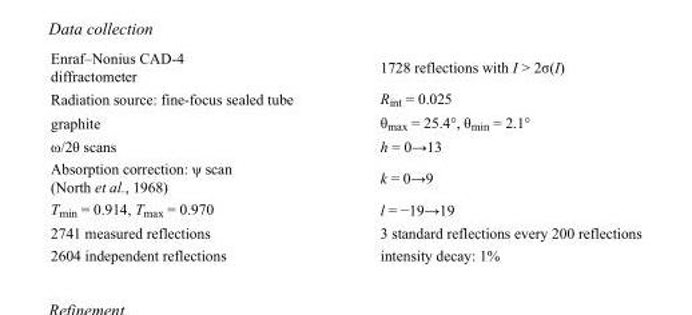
<table><tbody><tr><td>Enraf–Nonius CAD-4 diffractometer</td><td>1728 reflections with I &gt; 2σ(I)</td></tr><tr><td>Radiation source: fine-focus sealed tube</td><td>R<sub>int</sub> = 0.025</td></tr><tr><td>graphite</td><td>θ<sub>max</sub> = 25.4°, θ<sub>min</sub> = 2.1°</td></tr><tr><td>ω/2θ scans</td><td>h = 0→13</td></tr><tr><td>Absorption correction: ψ scan (North et al., 1968)</td><td>k = 0→9</td></tr><tr><td>T<sub>min</sub> = 0.914, T<sub>max</sub> = 0.970</td><td>l = −19→19</td></tr><tr><td>2741 measured reflections</td><td>3 standard reflections every 200 reflections</td></tr><tr><td>2604 independent reflections</td><td>intensity decay: 1%</td></tr></tbody></table>